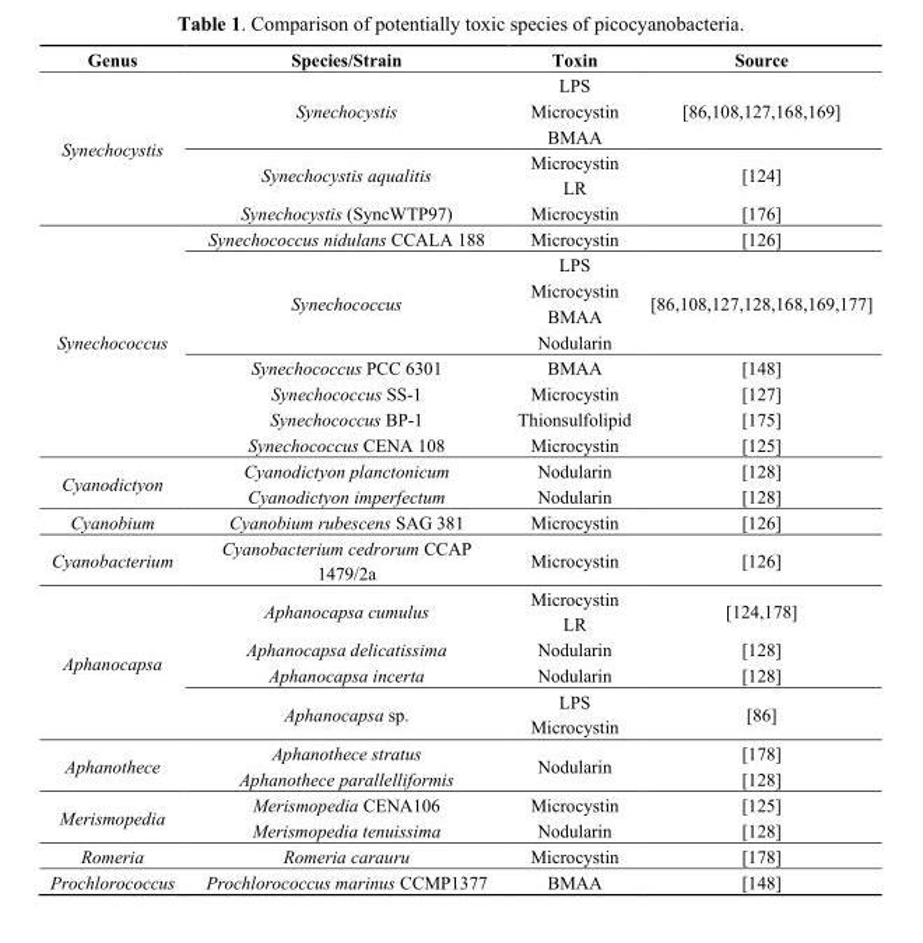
<table><thead><tr><td>Genus</td><td>Species/Strain</td><td>Toxin</td><td>Source</td></tr></thead><tbody><tr><td rowspan="5">Synechocystis</td><td rowspan="3">Synechocystis</td><td>LPS</td><td rowspan="3">[86,108,127,168,169]</td></tr><tr><td>Microcystin</td></tr><tr><td>BMAA</td></tr><tr><td>Synechocystis aqualitis</td><td>Microcystin LR</td><td>[124]</td></tr><tr><td>Synechocystis (SyncWTP97)</td><td>Microcystin</td><td>[176]</td></tr><tr><td rowspan="9">Synechococcus</td><td>Synechococcus nidulans CCALA 188</td><td>Microcystin</td><td>[126]</td></tr><tr><td rowspan="4">Synechococcus</td><td>LPS</td><td rowspan="4">[86,108,127,128,168,169,177]</td></tr><tr><td>Microcystin</td></tr><tr><td>BMAA</td></tr><tr><td>Nodularin</td></tr><tr><td>Synechococcus PCC 6301</td><td>BMAA</td><td>[148]</td></tr><tr><td>Synechococcus SS-1</td><td>Microcystin</td><td>[127]</td></tr><tr><td>Synechococcus BP-1</td><td>Thionsulfolipid</td><td>[175]</td></tr><tr><td>Synechococcus CENA 108</td><td>Microcystin</td><td>[125]</td></tr><tr><td rowspan="2">Cyanodictyon</td><td>Cyanodictyon planctonicum</td><td>Nodularin</td><td>[128]</td></tr><tr><td>Cyanodictyon imperfectum</td><td>Nodularin</td><td>[128]</td></tr><tr><td>Cyanobium</td><td>Cyanobium rubescens SAG 381</td><td>Microcystin</td><td>[126]</td></tr><tr><td>Cyanobacterium</td><td>Cyanobacterium cedrorum CCAP 1479/2a</td><td>Microcystin</td><td>[126]</td></tr><tr><td rowspan="4">Aphanocapsa</td><td>Aphanocapsa cumulus</td><td>Microcystin LR</td><td>[124,178]</td></tr><tr><td>Aphanocapsa delicatissima</td><td>Nodularin</td><td>[128]</td></tr><tr><td>Aphanocapsa incerta</td><td>Nodularin</td><td>[128]</td></tr><tr><td>Aphanocapsa sp.</td><td>LPS Microcystin</td><td>[86]</td></tr><tr><td rowspan="2">Aphanothece</td><td>Aphanothece stratus</td><td rowspan="2">Nodularin</td><td>[178]</td></tr><tr><td>Aphanothece parallelliformis</td><td>[128]</td></tr><tr><td rowspan="2">Merismopedia</td><td>Merismopedia CENA106</td><td>Microcystin</td><td>[125]</td></tr><tr><td>Merismopedia tenuissima</td><td>Nodularin</td><td>[128]</td></tr><tr><td>Romeria</td><td>Romeria carauru</td><td>Microcystin</td><td>[178]</td></tr><tr><td>Prochlorococcus</td><td>Prochlorococcus marinus CCMP1377</td><td>BMAA</td><td>[148]</td></tr></tbody></table>